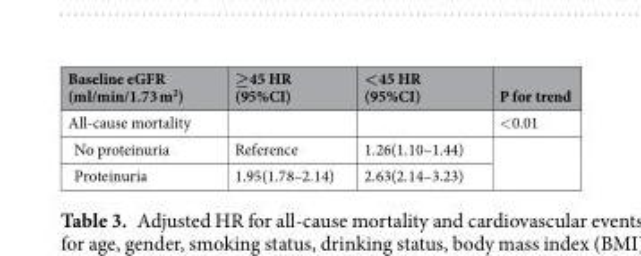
<table><thead><tr><td>Baseline eGFR (ml/min/1.73 m<sup>2</sup>)</td><td>≥45 HR (95%CI)</td><td>&lt;45 HR (95%CI)</td><td>P for trend</td></tr></thead><tbody><tr><td>All-cause mortality</td><td></td><td></td><td>&lt;0.01</td></tr><tr><td>No proteinuria</td><td>Reference</td><td>1.26(1.10–1.44)</td><td rowspan="2"></td></tr><tr><td>Proteinuria</td><td>1.95(1.78–2.14)</td><td>2.63(2.14–3.23)</td></tr></tbody></table>